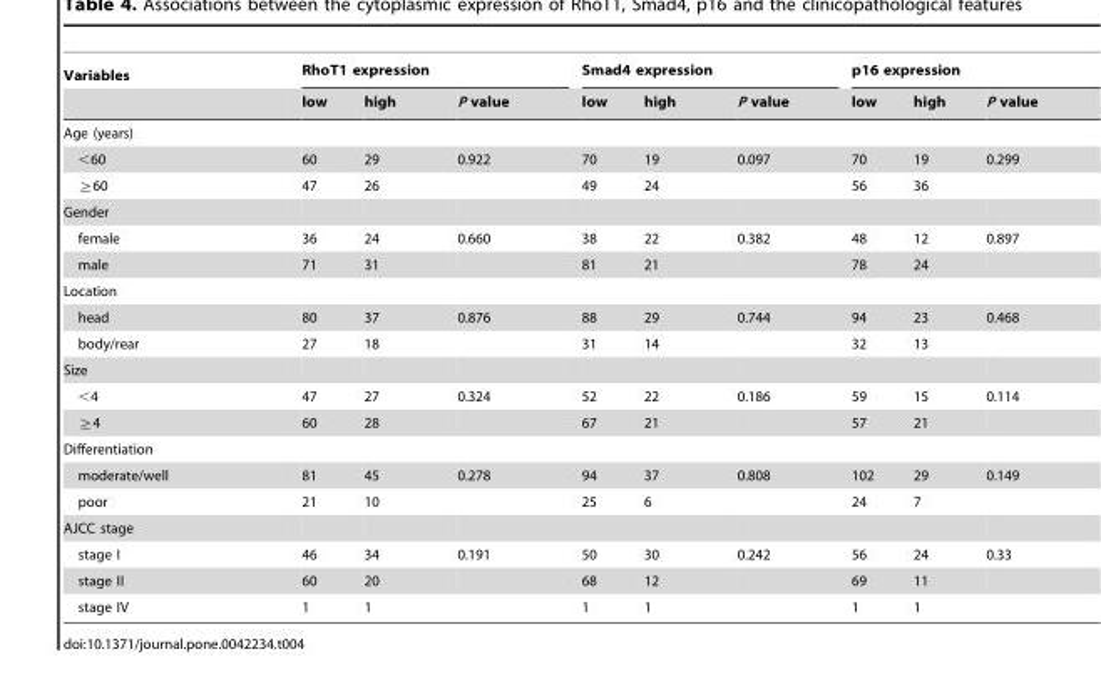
<table><thead><tr><td rowspan="2">Variables</td><td colspan="3">RhoT1 expression</td><td colspan="3">Smad4 expression</td><td colspan="3">p16 expression</td></tr><tr><td>low</td><td>high</td><td>P value</td><td>low</td><td>high</td><td>P value</td><td>low</td><td>high</td><td>P value</td></tr></thead><tbody><tr><td colspan="10">Age (years)</td></tr><tr><td>&lt;60</td><td>60</td><td>29</td><td>0.922</td><td>70</td><td>19</td><td>0.097</td><td>70</td><td>19</td><td>0.299</td></tr><tr><td>≧60</td><td>47</td><td>26</td><td></td><td>49</td><td>24</td><td></td><td>56</td><td>36</td><td></td></tr><tr><td colspan="10">Gender</td></tr><tr><td>female</td><td>36</td><td>24</td><td>0.660</td><td>38</td><td>22</td><td>0.382</td><td>48</td><td>12</td><td>0.897</td></tr><tr><td>male</td><td>71</td><td>31</td><td></td><td>81</td><td>21</td><td></td><td>78</td><td>24</td><td></td></tr><tr><td colspan="10">Location</td></tr><tr><td>head</td><td>80</td><td>37</td><td>0.876</td><td>88</td><td>29</td><td>0.744</td><td>94</td><td>23</td><td>0.468</td></tr><tr><td>body/rear</td><td>27</td><td>18</td><td></td><td>31</td><td>14</td><td></td><td>32</td><td>13</td><td></td></tr><tr><td colspan="10">Size</td></tr><tr><td>&lt;4</td><td>47</td><td>27</td><td>0.324</td><td>52</td><td>22</td><td>0.186</td><td>59</td><td>15</td><td>0.114</td></tr><tr><td>≧4</td><td>60</td><td>28</td><td></td><td>67</td><td>21</td><td></td><td>57</td><td>21</td><td></td></tr><tr><td colspan="10">Differentiation</td></tr><tr><td>moderate/well</td><td>81</td><td>45</td><td>0.278</td><td>94</td><td>37</td><td>0.808</td><td>102</td><td>29</td><td>0.149</td></tr><tr><td>poor</td><td>21</td><td>10</td><td></td><td>25</td><td>6</td><td></td><td>24</td><td>7</td><td></td></tr><tr><td colspan="10">AJCC stage</td></tr><tr><td>stage I</td><td>46</td><td>34</td><td>0.191</td><td>50</td><td>30</td><td>0.242</td><td>56</td><td>24</td><td>0.33</td></tr><tr><td>stage II</td><td>60</td><td>20</td><td></td><td>68</td><td>12</td><td></td><td>69</td><td>11</td><td></td></tr><tr><td>stage IV</td><td>1</td><td>1</td><td></td><td>1</td><td>1</td><td></td><td>1</td><td>1</td><td></td></tr></tbody></table>